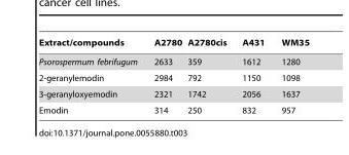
<table><thead><tr><td>Extract/compounds</td><td>A2780</td><td>A2780cis</td><td>A431</td><td>WM35</td></tr></thead><tbody><tr><td>Psorospermum febrifugum</td><td>2633</td><td>359</td><td>1612</td><td>1280</td></tr><tr><td>2-geranylemodin</td><td>2984</td><td>792</td><td>1150</td><td>1098</td></tr><tr><td>3-geranyloxyemodin</td><td>2321</td><td>1742</td><td>2056</td><td>1637</td></tr><tr><td>Emodin</td><td>314</td><td>250</td><td>832</td><td>957</td></tr></tbody></table>